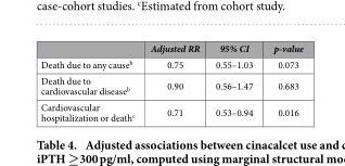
<table><thead><tr><td></td><td>Adjusted RR</td><td>95% CI</td><td>p-value</td></tr></thead><tbody><tr><td>Death due to any cause<sup>b</sup></td><td>0.75</td><td>0.55–1.03</td><td>0.073</td></tr><tr><td>Death due to cardiovascular disease<sup>b</sup></td><td>0.90</td><td>0.56–1.47</td><td>0.683</td></tr><tr><td>Cardiovascular hospitalization or death<sup>c</sup></td><td>0.71</td><td>0.53–0.94</td><td>0.016</td></tr></tbody></table>